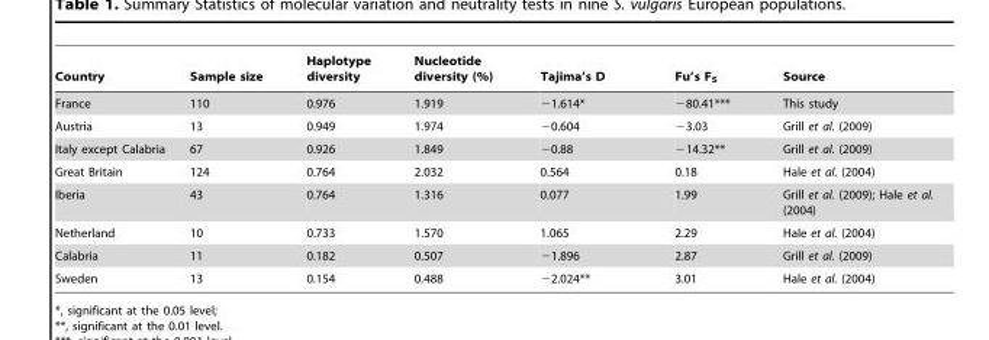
<table><thead><tr><td>Country</td><td>Sample size</td><td>Haplotype diversity</td><td>Nucleotide diversity (%)</td><td>Tajima’s D</td><td>Fu’s F<sub>S</sub></td><td>Source</td></tr></thead><tbody><tr><td>France</td><td>110</td><td>0.976</td><td>1.919</td><td>−1.614*</td><td>−80.41***</td><td>This study</td></tr><tr><td>Austria</td><td>13</td><td>0.949</td><td>1.974</td><td>−0.604</td><td>−3.03</td><td>Grill et al. (2009)</td></tr><tr><td>Italy except Calabria</td><td>67</td><td>0.926</td><td>1.849</td><td>−0.88</td><td>−14.32**</td><td>Grill et al. (2009)</td></tr><tr><td>Great Britain</td><td>124</td><td>0.764</td><td>2.032</td><td>0.564</td><td>0.18</td><td>Hale et al. (2004)</td></tr><tr><td>Iberia</td><td>43</td><td>0.764</td><td>1.316</td><td>0.077</td><td>1.99</td><td>Grill et al. (2009); Hale et al. (2004)</td></tr><tr><td>Netherland</td><td>10</td><td>0.733</td><td>1.570</td><td>1.065</td><td>2.29</td><td>Hale et al. (2004)</td></tr><tr><td>Calabria</td><td>11</td><td>0.182</td><td>0.507</td><td>−1.896</td><td>2.87</td><td>Grill et al. (2009)</td></tr><tr><td>Sweden</td><td>13</td><td>0.154</td><td>0.488</td><td>−2.024**</td><td>3.01</td><td>Hale et al. (2004)</td></tr></tbody></table>